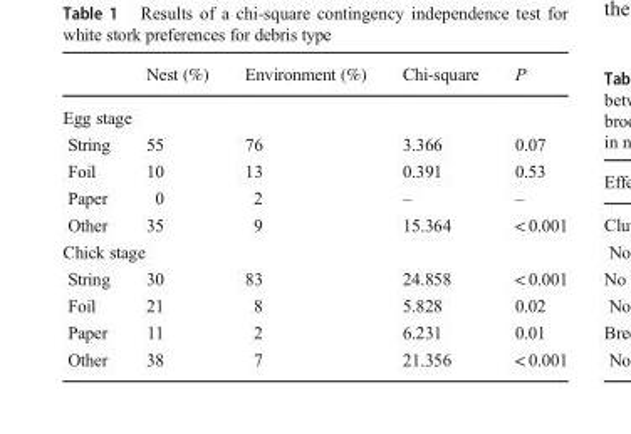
<table><thead><tr><td></td><td>Nest (%)</td><td>Environment (%)</td><td>Chi-square</td><td>P</td></tr></thead><tbody><tr><td colspan="5">Egg stage</td></tr><tr><td>String</td><td>55</td><td>76</td><td>3.366</td><td>0.07</td></tr><tr><td>Foil</td><td>10</td><td>13</td><td>0.391</td><td>0.53</td></tr><tr><td>Paper</td><td>0</td><td>2</td><td>–</td><td>–</td></tr><tr><td>Other</td><td>35</td><td>9</td><td>15.364</td><td>&lt; 0.001</td></tr><tr><td colspan="5">Chick stage</td></tr><tr><td>String</td><td>30</td><td>83</td><td>24.858</td><td>&lt; 0.001</td></tr><tr><td>Foil</td><td>21</td><td>8</td><td>5.828</td><td>0.02</td></tr><tr><td>Paper</td><td>11</td><td>2</td><td>6.231</td><td>0.01</td></tr><tr><td>Other</td><td>38</td><td>7</td><td>21.356</td><td>&lt; 0.001</td></tr></tbody></table>